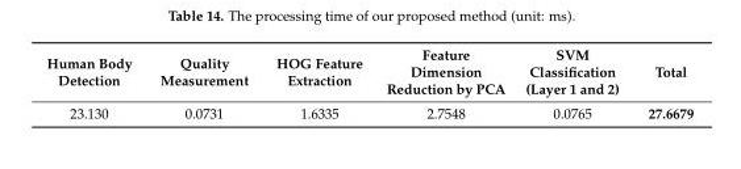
<table><thead><tr><td>Human Body Detection</td><td>Quality Measurement</td><td>HOG Feature Extraction</td><td>Feature Dimension Reduction by PCA</td><td>SVM Classification (Layer 1 and 2)</td><td>Total</td></tr></thead><tbody><tr><td>23.130</td><td>0.0731</td><td>1.6335</td><td>2.7548</td><td>0.0765</td><td>27.6679</td></tr></tbody></table>